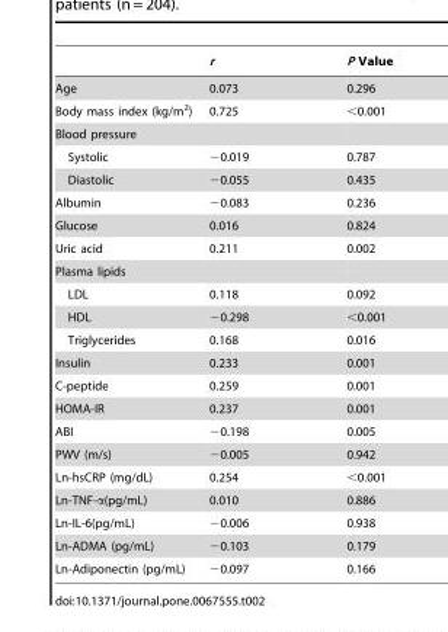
<table><thead><tr><td></td><td>r</td><td>P Value</td></tr></thead><tbody><tr><td>Age</td><td>0.073</td><td>0.296</td></tr><tr><td>Body mass index (kg/m<sup>2</sup>)</td><td>0.725</td><td>&lt;0.001</td></tr><tr><td colspan="3">Blood pressure</td></tr><tr><td>Systolic</td><td>−0.019</td><td>0.787</td></tr><tr><td>Diastolic</td><td>−0.055</td><td>0.435</td></tr><tr><td>Albumin</td><td>−0.083</td><td>0.236</td></tr><tr><td>Glucose</td><td>0.016</td><td>0.824</td></tr><tr><td>Uric acid</td><td>0.211</td><td>0.002</td></tr><tr><td colspan="3">Plasma lipids</td></tr><tr><td>LDL</td><td>0.118</td><td>0.092</td></tr><tr><td>HDL</td><td>−0.298</td><td>&lt;0.001</td></tr><tr><td>Triglycerides</td><td>0.168</td><td>0.016</td></tr><tr><td>Insulin</td><td>0.233</td><td>0.001</td></tr><tr><td>C-peptide</td><td>0.259</td><td>0.001</td></tr><tr><td>HOMA-IR</td><td>0.237</td><td>0.001</td></tr><tr><td>ABI</td><td>−0.198</td><td>0.005</td></tr><tr><td>PWV (m/s)</td><td>−0.005</td><td>0.942</td></tr><tr><td>Ln-hsCRP (mg/dL)</td><td>0.254</td><td>&lt;0.001</td></tr><tr><td>Ln-TNF-α(pg/mL)</td><td>0.010</td><td>0.886</td></tr><tr><td>Ln-IL-6(pg/mL)</td><td>−0.006</td><td>0.938</td></tr><tr><td>Ln-ADMA (pg/mL)</td><td>−0.103</td><td>0.179</td></tr><tr><td>Ln-Adiponectin (pg/mL)</td><td>−0.097</td><td>0.166</td></tr></tbody></table>